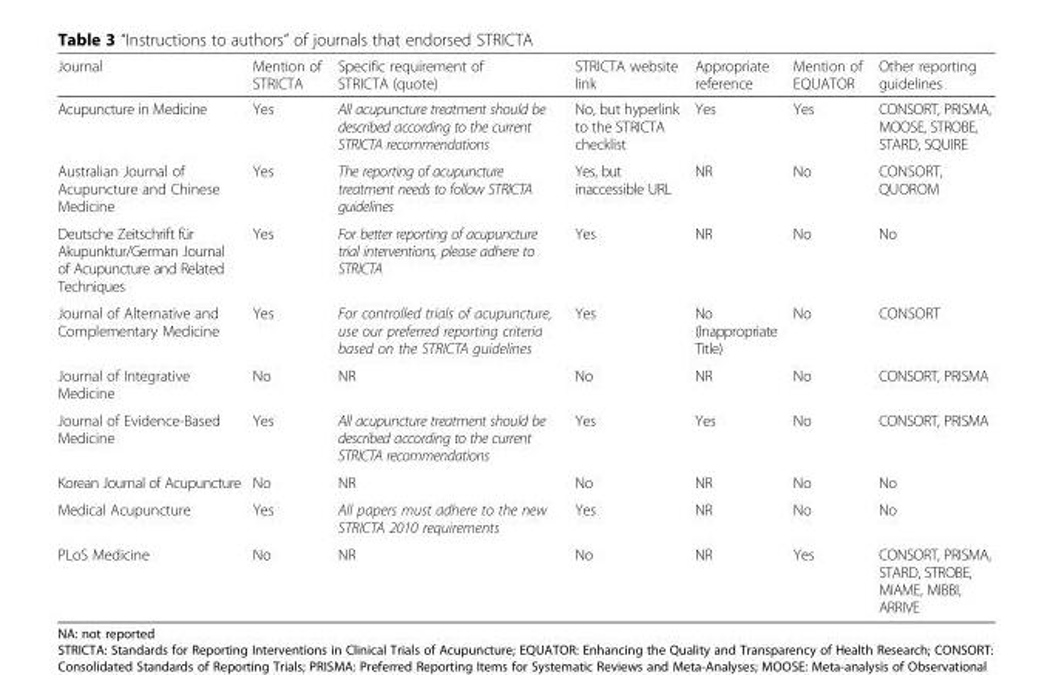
<table><thead><tr><td>Journal</td><td>Mention of STRICTA</td><td>Specific requirement of STRICTA (quote)</td><td>STRICTA website link</td><td>Appropriate reference</td><td>Mention of EQUATOR</td><td>Other reporting guidelines</td></tr></thead><tbody><tr><td>Acupuncture in Medicine</td><td>Yes</td><td>All acupuncture treatment should be described according to the current STRICTA recommendations</td><td>No, but hyperlink to the STRICTA checklist</td><td>Yes</td><td>Yes</td><td>CONSORT, PRISMA, MOOSE, STROBE, STARD, SQUIRE</td></tr><tr><td>Australian Journal of Acupuncture and Chinese Medicine</td><td>Yes</td><td>The reporting of acupuncture treatment needs to follow STRICTA guidelines</td><td>Yes, but inaccessible URL</td><td>NR</td><td>No</td><td>CONSORT, QUOROM</td></tr><tr><td>Deutsche Zeitschrift für Akupunktur/German Journal of Acupuncture and Related Techniques</td><td>Yes</td><td>For better reporting of acupuncture trial interventions, please adhere to STRICTA</td><td>Yes</td><td>NR</td><td>No</td><td>No</td></tr><tr><td>Journal of Alternative and Complementary Medicine</td><td>Yes</td><td>For controlled trials of acupuncture, use our preferred reporting criteria based on the STRICTA guidelines</td><td>Yes</td><td>No (Inappropriate Title)</td><td>No</td><td>CONSORT</td></tr><tr><td>Journal of Integrative Medicine</td><td>No</td><td>NR</td><td>No</td><td>NR</td><td>No</td><td>CONSORT, PRISMA</td></tr><tr><td>Journal of Evidence-Based Medicine</td><td>Yes</td><td>All acupuncture treatment should be described according to the current STRICTA recommendations</td><td>Yes</td><td>Yes</td><td>No</td><td>CONSORT, PRISMA</td></tr><tr><td>Korean Journal of Acupuncture</td><td>No</td><td>NR</td><td>No</td><td>NR</td><td>No</td><td>No</td></tr><tr><td>Medical Acupuncture</td><td>Yes</td><td>All papers must adhere to the new STRICTA 2010 requirements</td><td>Yes</td><td>NR</td><td>No</td><td>No</td></tr><tr><td>PLoS Medicine</td><td>No</td><td>NR</td><td>No</td><td>NR</td><td>Yes</td><td>CONSORT, PRISMA, STARD, STROBE, MIAME, MIBBI, ARRIVE</td></tr></tbody></table>